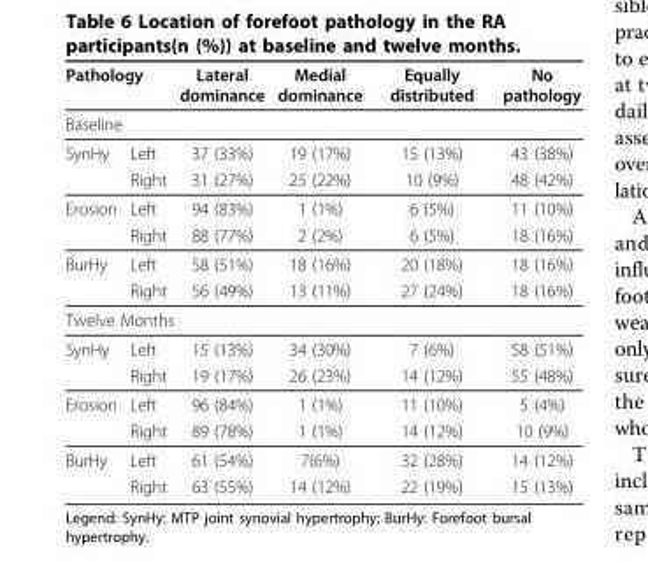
<table><thead><tr><td colspan="2">Pathology</td><td>Lateral dominance</td><td>Medial dominance</td><td>Equally distributed</td><td>No pathology</td></tr><tr><td colspan="6">Baseline</td></tr><tr><td>SynHy</td><td>Left</td><td>37 (33%)</td><td>19 (17%)</td><td>15 (13%)</td><td>43 (38%)</td></tr></thead><tbody><tr><td></td><td>Right</td><td>31 (27%)</td><td>25 (22%)</td><td>10 (9%)</td><td>48 (42%)</td></tr><tr><td rowspan="2">Erosion</td><td>Left</td><td>94 (83%)</td><td>1 (1%)</td><td>6 (5%)</td><td>11 (10%)</td></tr><tr><td>Right</td><td>88 (77%)</td><td>2 (2%)</td><td>6 (5%)</td><td>18 (16%)</td></tr><tr><td rowspan="2">BurHy</td><td>Left</td><td>58 (51%)</td><td>18 (16%)</td><td>20 (18%)</td><td>18 (16%)</td></tr><tr><td>Right</td><td>56 (49%)</td><td>13 (11%)</td><td>27 (24%)</td><td>18 (16%)</td></tr><tr><td colspan="6">Twelve Months</td></tr><tr><td rowspan="2">SynHy</td><td>Left</td><td>15 (13%)</td><td>34 (30%)</td><td>7 (6%)</td><td>58 (51%)</td></tr><tr><td>Right</td><td>19 (17%)</td><td>26 (23%)</td><td>14 (12%)</td><td>55 (48%)</td></tr><tr><td rowspan="2">Erosion</td><td>Left</td><td>96 (84%)</td><td>1 (1%)</td><td>11 (10%)</td><td>5 (4%)</td></tr><tr><td>Right</td><td>89 (78%)</td><td>1 (1%)</td><td>14 (12%)</td><td>10 (9%)</td></tr><tr><td rowspan="2">BurHy</td><td>Left</td><td>61 (54%)</td><td>7(6%)</td><td>32 (28%)</td><td>14 (12%)</td></tr><tr><td>Right</td><td>63 (55%)</td><td>14 (12%)</td><td>22 (19%)</td><td>15 (13%)</td></tr></tbody></table>